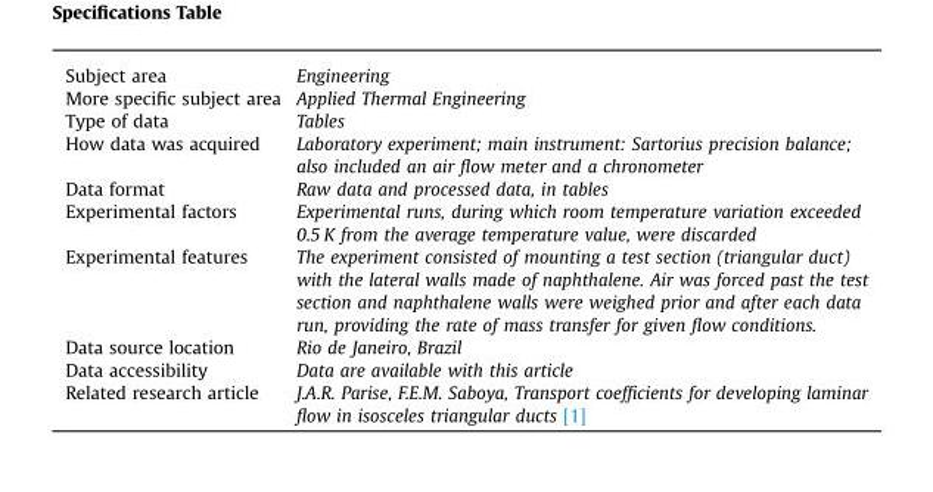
<table><tbody><tr><td>Subject area</td><td>Engineering</td></tr><tr><td>More specific subject area</td><td>Applied Thermal Engineering</td></tr><tr><td>Type of data</td><td>Tables</td></tr><tr><td>How data was acquired</td><td>Laboratory experiment; main instrument: Sartorius precision balance; also included an air flow meter and a chronometer</td></tr><tr><td>Data format</td><td>Raw data and processed data, in tables</td></tr><tr><td>Experimental factors</td><td>Experimental runs, during which room temperature variation exceeded 0.5 K from the average temperature value, were discarded</td></tr><tr><td>Experimental features</td><td>The experiment consisted of mounting a test section (triangular duct) with the lateral walls made of naphthalene. Air was forced past the test section and naphthalene walls were weighed prior and after each data run, providing the rate of mass transfer for given flow conditions.</td></tr><tr><td>Data source location</td><td>Rio de Janeiro, Brazil</td></tr><tr><td>Data accessibility</td><td>Data are available with this article</td></tr><tr><td>Related research article</td><td>J.A.R. Parise, F.E.M. Saboya, Transport coefficients for developing laminar flow in isosceles triangular ducts [1]</td></tr></tbody></table>